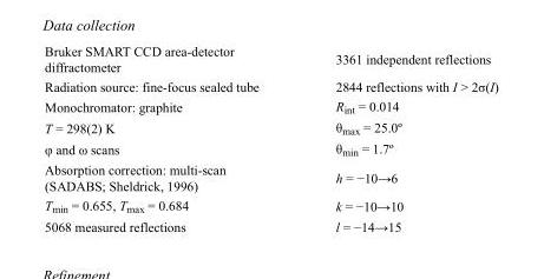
<table><tbody><tr><td>Bruker SMART CCD area-detector diffractometer</td><td>3361 independent reflections</td></tr><tr><td>Radiation source: fine-focus sealed tube</td><td>2844 reflections with I &gt; 2σ(I)</td></tr><tr><td>Monochromator: graphite</td><td>R<sub>int</sub> = 0.014</td></tr><tr><td>T = 298(2) K</td><td>θ<sub>max</sub> = 25.0º</td></tr><tr><td>φ and ω scans</td><td>θ<sub>min</sub> = 1.7º</td></tr><tr><td>Absorption correction: multi-scan (SADABS; Sheldrick, 1996)</td><td>h = −10→6</td></tr><tr><td>T<sub>min</sub> = 0.655, T<sub>max</sub> = 0.684</td><td>k = −10→10</td></tr><tr><td>5068 measured reflections</td><td>l = −14→15</td></tr></tbody></table>